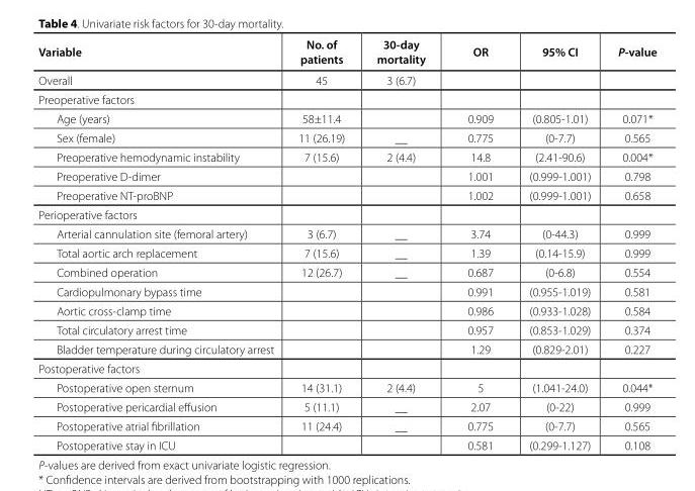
<table><thead><tr><td>Variable</td><td>No. of patients</td><td>30-day mortality</td><td>OR</td><td>95% CI</td><td>P-value</td></tr></thead><tbody><tr><td>Overall</td><td>45</td><td>3 (6.7)</td><td></td><td></td><td></td></tr><tr><td colspan="6">Preoperative factors</td></tr><tr><td>Age (years)</td><td>58±11.4</td><td></td><td>0.909</td><td>(0.805-1.01)</td><td>0.071*</td></tr><tr><td>Sex (female)</td><td>11 (26.19)</td><td>__</td><td>0.775</td><td>(0-7.7)</td><td>0.565</td></tr><tr><td>Preoperative hemodynamic instability</td><td>7 (15.6)</td><td>2 (4.4)</td><td>14.8</td><td>(2.41-90.6)</td><td>0.004*</td></tr><tr><td>Preoperative D-dimer</td><td></td><td></td><td>1.001</td><td>(0.999-1.001)</td><td>0.798</td></tr><tr><td>Preoperative NT-proBNP</td><td></td><td></td><td>1.002</td><td>(0.999-1.001)</td><td>0.658</td></tr><tr><td colspan="6">Perioperative factors</td></tr><tr><td>Arterial cannulation site (femoral artery)</td><td>3 (6.7)</td><td>__</td><td>3.74</td><td>(0-44.3)</td><td>0.999</td></tr><tr><td>Total aortic arch replacement</td><td>7 (15.6)</td><td>__</td><td>1.39</td><td>(0.14-15.9)</td><td>0.999</td></tr><tr><td>Combined operation</td><td>12 (26.7)</td><td>__</td><td>0.687</td><td>(0-6.8)</td><td>0.554</td></tr><tr><td>Cardiopulmonary bypass time</td><td></td><td></td><td>0.991</td><td>(0.955-1.019)</td><td>0.581</td></tr><tr><td>Aortic cross-clamp time</td><td></td><td></td><td>0.986</td><td>(0.933-1.028)</td><td>0.584</td></tr><tr><td>Total circulatory arrest time</td><td></td><td></td><td>0.957</td><td>(0.853-1.029)</td><td>0.374</td></tr><tr><td>Bladder temperature during circulatory arrest</td><td></td><td></td><td>1.29</td><td>(0.829-2.01)</td><td>0.227</td></tr><tr><td colspan="6">Postoperative factors</td></tr><tr><td>Postoperative open sternum</td><td>14 (31.1)</td><td>2 (4.4)</td><td>5</td><td>(1.041-24.0)</td><td>0.044*</td></tr><tr><td>Postoperative pericardial effusion</td><td>5 (11.1)</td><td>__</td><td>2.07</td><td>(0-22)</td><td>0.999</td></tr><tr><td>Postoperative atrial fibrillation</td><td>11 (24.4)</td><td>__</td><td>0.775</td><td>(0-7.7)</td><td>0.565</td></tr><tr><td>Postoperative stay in ICU</td><td></td><td></td><td>0.581</td><td>(0.299-1.127)</td><td>0.108</td></tr></tbody></table>